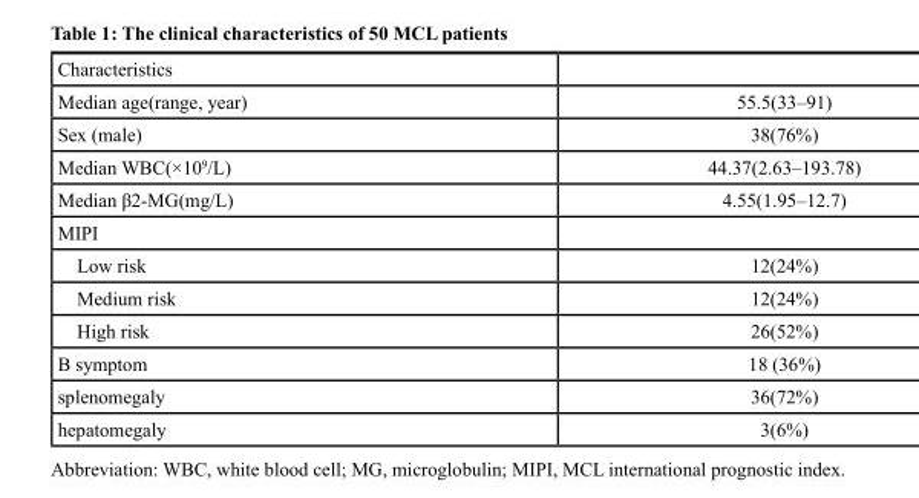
<table><thead><tr><td>Characteristics</td><td></td></tr></thead><tbody><tr><td>Median age(range, year)</td><td>55.5(33–91)</td></tr><tr><td>Sex (male)</td><td>38(76%)</td></tr><tr><td>Median WBC(×10<sup>9</sup>/L)</td><td>44.37(2.63–193.78)</td></tr><tr><td>Median β2-MG(mg/L)</td><td>4.55(1.95–12.7)</td></tr><tr><td colspan="2">MIPI</td></tr><tr><td>Low risk</td><td>12(24%)</td></tr><tr><td>Medium risk</td><td>12(24%)</td></tr><tr><td>High risk</td><td>26(52%)</td></tr><tr><td>B symptom</td><td>18 (36%)</td></tr><tr><td>splenomegaly</td><td>36(72%)</td></tr><tr><td>hepatomegaly</td><td>3(6%)</td></tr></tbody></table>